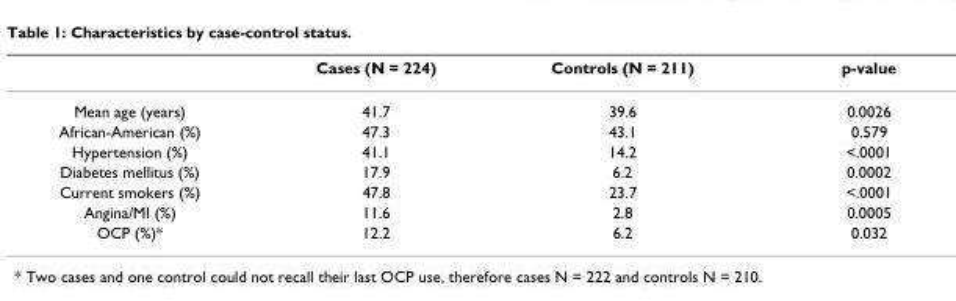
<table><thead><tr><td></td><td>Cases (N = 224)</td><td>Controls (N = 211)</td><td>p-value</td></tr></thead><tbody><tr><td>Mean age (years)</td><td>41.7</td><td>39.6</td><td>0.0026</td></tr><tr><td>African-American (%)</td><td>47.3</td><td>43.1</td><td>0.579</td></tr><tr><td>Hypertension (%)</td><td>41.1</td><td>14.2</td><td>&lt;.0001</td></tr><tr><td>Diabetes mellitus (%)</td><td>17.9</td><td>6.2</td><td>0.0002</td></tr><tr><td>Current smokers (%)</td><td>47.8</td><td>23.7</td><td>&lt;.0001</td></tr><tr><td>Angina/MI (%)</td><td>11.6</td><td>2.8</td><td>0.0005</td></tr><tr><td>OCP (%)*</td><td>12.2</td><td>6.2</td><td>0.032</td></tr></tbody></table>